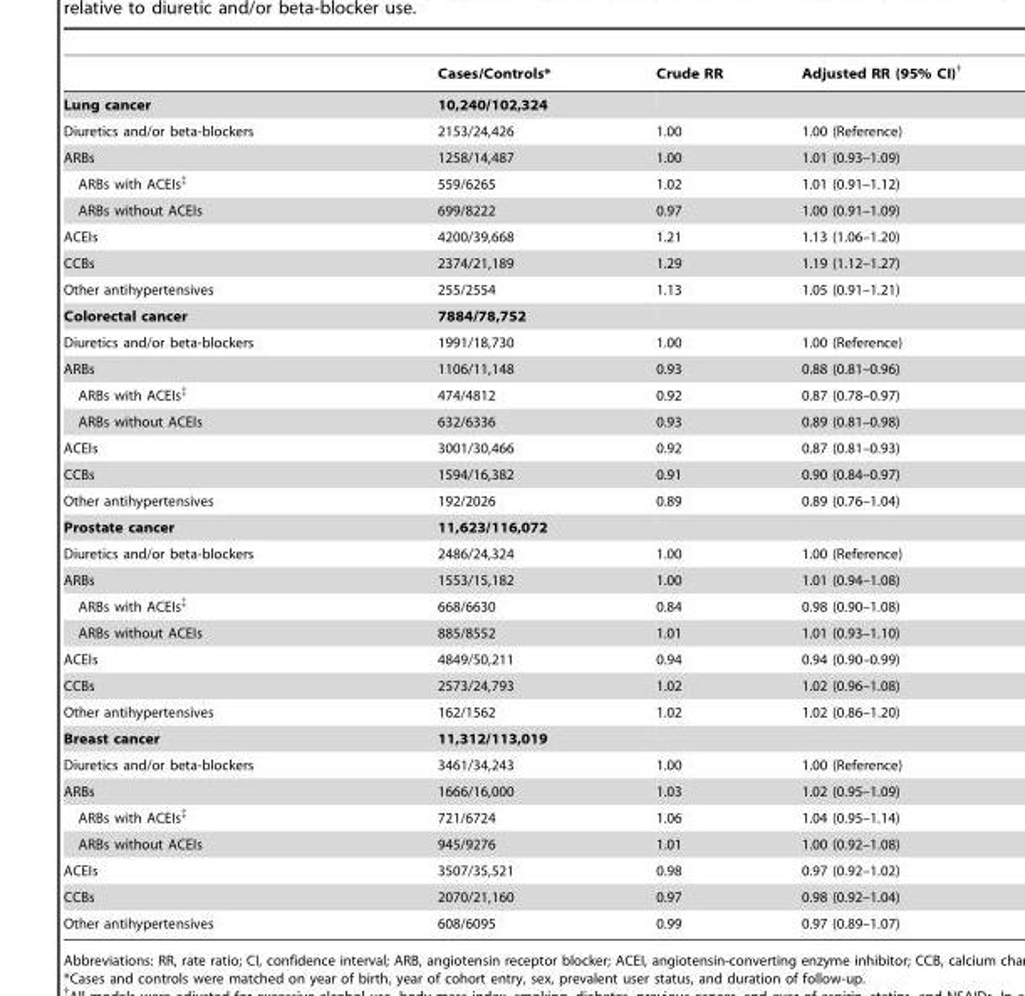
<table><thead><tr><td></td><td>Cases/Controls*</td><td>Crude RR</td><td>Adjusted RR (95% CI)†</td></tr></thead><tbody><tr><td>Lung cancer</td><td>10,240/102,324</td><td></td><td></td></tr><tr><td>Diuretics and/or beta-blockers</td><td>2153/24,426</td><td>1.00</td><td>1.00 (Reference)</td></tr><tr><td>ARBs</td><td>1258/14,487</td><td>1.00</td><td>1.01 (0.93–1.09)</td></tr><tr><td>ARBs with ACEIs‡</td><td>559/6265</td><td>1.02</td><td>1.01 (0.91–1.12)</td></tr><tr><td>ARBs without ACEIs</td><td>699/8222</td><td>0.97</td><td>1.00 (0.91–1.09)</td></tr><tr><td>ACEIs</td><td>4200/39,668</td><td>1.21</td><td>1.13 (1.06–1.20)</td></tr><tr><td>CCBs</td><td>2374/21,189</td><td>1.29</td><td>1.19 (1.12–1.27)</td></tr><tr><td>Other antihypertensives</td><td>255/2554</td><td>1.13</td><td>1.05 (0.91–1.21)</td></tr><tr><td>Colorectal cancer</td><td>7884/78,752</td><td></td><td></td></tr><tr><td>Diuretics and/or beta-blockers</td><td>1991/18,730</td><td>1.00</td><td>1.00 (Reference)</td></tr><tr><td>ARBs</td><td>1106/11,148</td><td>0.93</td><td>0.88 (0.81–0.96)</td></tr><tr><td>ARBs with ACEIs‡</td><td>474/4812</td><td>0.92</td><td>0.87 (0.78–0.97)</td></tr><tr><td>ARBs without ACEIs</td><td>632/6336</td><td>0.93</td><td>0.89 (0.81–0.98)</td></tr><tr><td>ACEIs</td><td>3001/30,466</td><td>0.92</td><td>0.87 (0.81–0.93)</td></tr><tr><td>CCBs</td><td>1594/16,382</td><td>0.91</td><td>0.90 (0.84–0.97)</td></tr><tr><td>Other antihypertensives</td><td>192/2026</td><td>0.89</td><td>0.89 (0.76–1.04)</td></tr><tr><td>Prostate cancer</td><td>11,623/116,072</td><td></td><td></td></tr><tr><td>Diuretics and/or beta-blockers</td><td>2486/24,324</td><td>1.00</td><td>1.00 (Reference)</td></tr><tr><td>ARBs</td><td>1553/15,182</td><td>1.00</td><td>1.01 (0.94–1.08)</td></tr><tr><td>ARBs with ACEIs‡</td><td>668/6630</td><td>0.84</td><td>0.98 (0.90–1.08)</td></tr><tr><td>ARBs without ACEIs</td><td>885/8552</td><td>1.01</td><td>1.01 (0.93–1.10)</td></tr><tr><td>ACEIs</td><td>4849/50,211</td><td>0.94</td><td>0.94 (0.90–0.99)</td></tr><tr><td>CCBs</td><td>2573/24,793</td><td>1.02</td><td>1.02 (0.96–1.08)</td></tr><tr><td>Other antihypertensives</td><td>162/1562</td><td>1.02</td><td>1.02 (0.86–1.20)</td></tr><tr><td>Breast cancer</td><td>11,312/113,019</td><td></td><td></td></tr><tr><td>Diuretics and/or beta-blockers</td><td>3461/34,243</td><td>1.00</td><td>1.00 (Reference)</td></tr><tr><td>ARBs</td><td>1666/16,000</td><td>1.03</td><td>1.02 (0.95–1.09)</td></tr><tr><td>ARBs with ACEIs‡</td><td>721/6724</td><td>1.06</td><td>1.04 (0.95–1.14)</td></tr><tr><td>ARBs without ACEIs</td><td>945/9276</td><td>1.01</td><td>1.00 (0.92–1.08)</td></tr><tr><td>ACEIs</td><td>3507/35,521</td><td>0.98</td><td>0.97 (0.92–1.02)</td></tr><tr><td>CCBs</td><td>2070/21,160</td><td>0.97</td><td>0.98 (0.92–1.04)</td></tr><tr><td>Other antihypertensives</td><td>608/6095</td><td>0.99</td><td>0.97 (0.89–1.07)</td></tr></tbody></table>